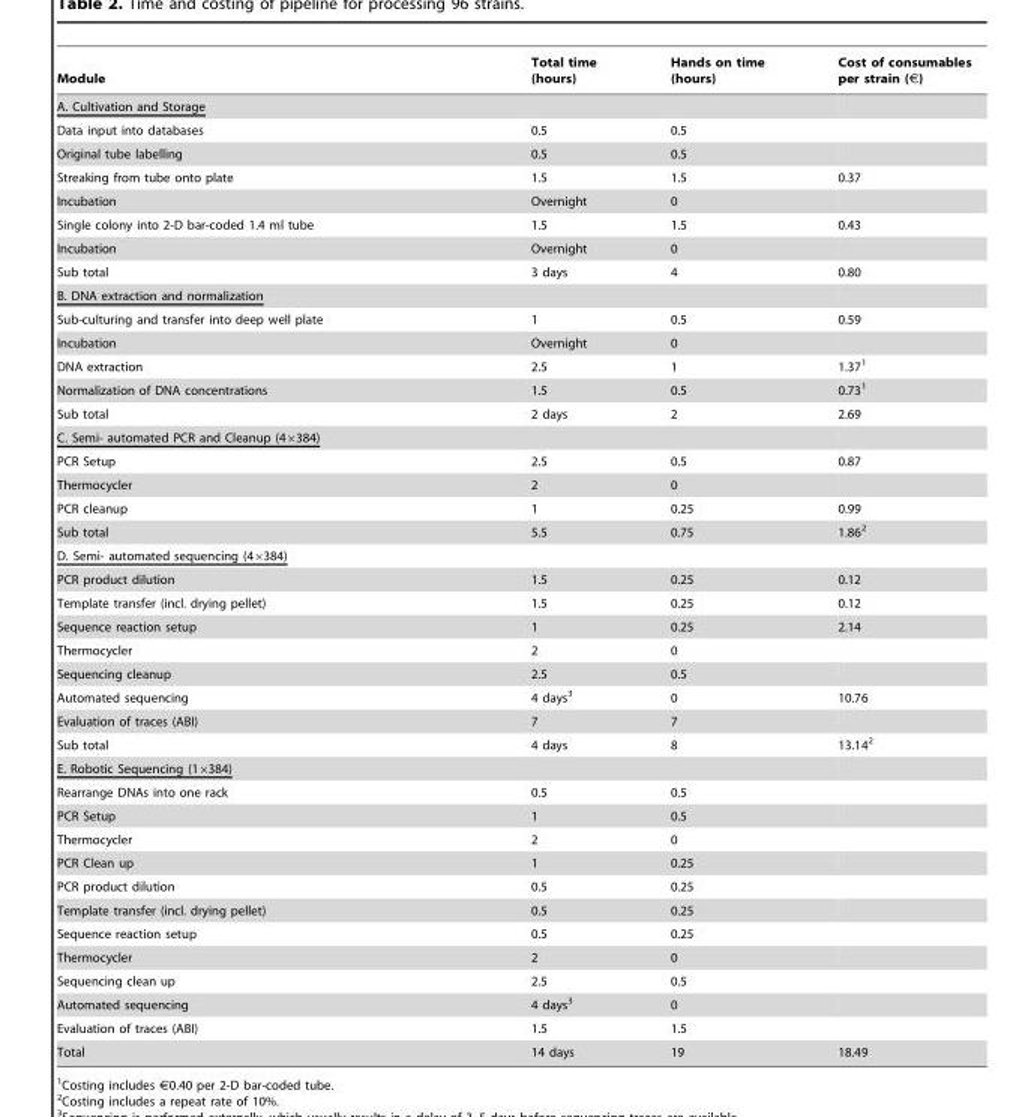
<table><thead><tr><td>Module</td><td>Total time (hours)</td><td>Hands on time (hours)</td><td>Cost of consumables per strain (€)</td></tr></thead><tbody><tr><td colspan="4">A. Cultivation and Storage</td></tr><tr><td>Data input into databases</td><td>0.5</td><td>0.5</td><td></td></tr><tr><td>Original tube labelling</td><td>0.5</td><td>0.5</td><td></td></tr><tr><td>Streaking from tube onto plate</td><td>1.5</td><td>1.5</td><td>0.37</td></tr><tr><td>Incubation</td><td>Overnight</td><td>0</td><td></td></tr><tr><td>Single colony into 2-D bar-coded 1.4 ml tube</td><td>1.5</td><td>1.5</td><td>0.43</td></tr><tr><td>Incubation</td><td>Overnight</td><td>0</td><td></td></tr><tr><td>Sub total</td><td>3 days</td><td>4</td><td>0.80</td></tr><tr><td colspan="4">B. DNA extraction and normalization</td></tr><tr><td>Sub-culturing and transfer into deep well plate</td><td>1</td><td>0.5</td><td>0.59</td></tr><tr><td>Incubation</td><td>Overnight</td><td>0</td><td></td></tr><tr><td>DNA extraction</td><td>2.5</td><td>1</td><td>1.37<sup>1</sup></td></tr><tr><td>Normalization of DNA concentrations</td><td>1.5</td><td>0.5</td><td>0.73<sup>1</sup></td></tr><tr><td>Sub total</td><td>2 days</td><td>2</td><td>2.69</td></tr><tr><td colspan="4">C. Semi- automated PCR and Cleanup (4×384)</td></tr><tr><td>PCR Setup</td><td>2.5</td><td>0.5</td><td>0.87</td></tr><tr><td>Thermocycler</td><td>2</td><td>0</td><td></td></tr><tr><td>PCR cleanup</td><td>1</td><td>0.25</td><td>0.99</td></tr><tr><td>Sub total</td><td>5.5</td><td>0.75</td><td>1.86<sup>2</sup></td></tr><tr><td colspan="4">D. Semi- automated sequencing (4×384)</td></tr><tr><td>PCR product dilution</td><td>1.5</td><td>0.25</td><td>0.12</td></tr><tr><td>Template transfer (incl. drying pellet)</td><td>1.5</td><td>0.25</td><td>0.12</td></tr><tr><td>Sequence reaction setup</td><td>1</td><td>0.25</td><td>2.14</td></tr><tr><td>Thermocycler</td><td>2</td><td>0</td><td></td></tr><tr><td>Sequencing cleanup</td><td>2.5</td><td>0.5</td><td></td></tr><tr><td>Automated sequencing</td><td>4 days<sup>3</sup></td><td>0</td><td>10.76</td></tr><tr><td>Evaluation of traces (ABI)</td><td>7</td><td>7</td><td></td></tr><tr><td>Sub total</td><td>4 days</td><td>8</td><td>13.14<sup>2</sup></td></tr><tr><td colspan="4">E. Robotic Sequencing (1×384)</td></tr><tr><td>Rearrange DNAs into one rack</td><td>0.5</td><td>0.5</td><td></td></tr><tr><td>PCR Setup</td><td>1</td><td>0.5</td><td></td></tr><tr><td>Thermocycler</td><td>2</td><td>0</td><td></td></tr><tr><td>PCR Clean up</td><td>1</td><td>0.25</td><td></td></tr><tr><td>PCR product dilution</td><td>0.5</td><td>0.25</td><td></td></tr><tr><td>Template transfer (incl. drying pellet)</td><td>0.5</td><td>0.25</td><td></td></tr><tr><td>Sequence reaction setup</td><td>0.5</td><td>0.25</td><td></td></tr><tr><td>Thermocycler</td><td>2</td><td>0</td><td></td></tr><tr><td>Sequencing clean up</td><td>2.5</td><td>0.5</td><td></td></tr><tr><td>Automated sequencing</td><td>4 days<sup>3</sup></td><td>0</td><td></td></tr><tr><td>Evaluation of traces (ABI)</td><td>1.5</td><td>1.5</td><td></td></tr><tr><td>Total</td><td>14 days</td><td>19</td><td>18.49</td></tr></tbody></table>